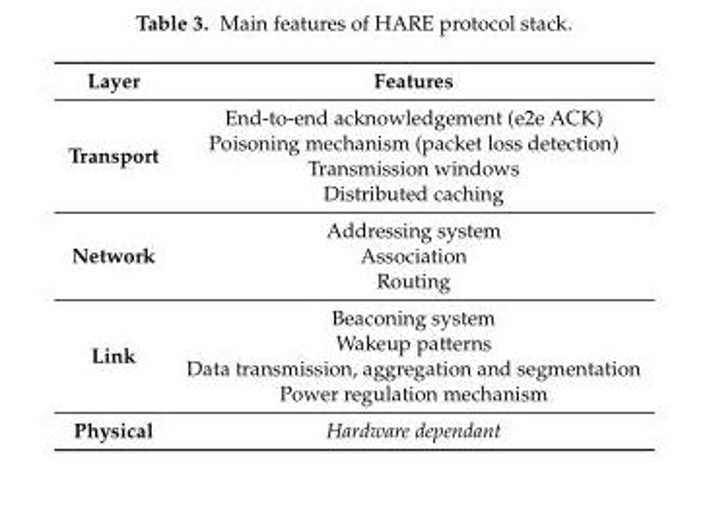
<table><thead><tr><td>Layer</td><td>Features</td></tr></thead><tbody><tr><td>Transport</td><td>End-to-end acknowledgement (e2e ACK) Poisoning mechanism (packet loss detection) Transmission windows Distributed caching</td></tr><tr><td>Network</td><td>Addressing system Association Routing</td></tr><tr><td>Link</td><td>Beaconing system Wakeup patterns Data transmission, aggregation and segmentation Power regulation mechanism</td></tr><tr><td>Physical</td><td>Hardware dependant</td></tr></tbody></table>